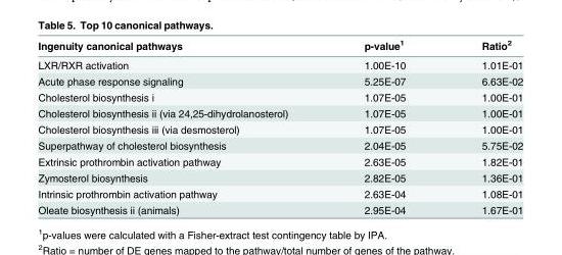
<table><thead><tr><td>Ingenuity canonical pathways</td><td>p-value<sup>1</sup></td><td>Ratio<sup>2</sup></td></tr></thead><tbody><tr><td>LXR/RXR activation</td><td>1.00E-10</td><td>1.01E-01</td></tr><tr><td>Acute phase response signaling</td><td>5.25E-07</td><td>6.63E-02</td></tr><tr><td>Cholesterol biosynthesis i</td><td>1.07E-05</td><td>1.00E-01</td></tr><tr><td>Cholesterol biosynthesis ii (via 24,25-dihydrolanosterol)</td><td>1.07E-05</td><td>1.00E-01</td></tr><tr><td>Cholesterol biosynthesis iii (via desmosterol)</td><td>1.07E-05</td><td>1.00E-01</td></tr><tr><td>Superpathway of cholesterol biosynthesis</td><td>2.04E-05</td><td>5.75E-02</td></tr><tr><td>Extrinsic prothrombin activation pathway</td><td>2.63E-05</td><td>1.82E-01</td></tr><tr><td>Zymosterol biosynthesis</td><td>2.82E-05</td><td>1.36E-01</td></tr><tr><td>Intrinsic prothrombin activation pathway</td><td>2.63E-04</td><td>1.08E-01</td></tr><tr><td>Oleate biosynthesis ii (animals)</td><td>2.95E-04</td><td>1.67E-01</td></tr></tbody></table>